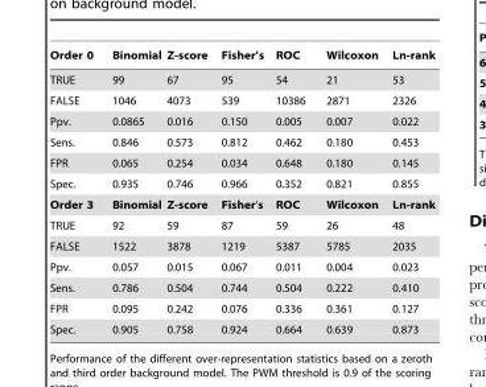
<table><thead><tr><td>Order 0</td><td>Binomial</td><td>Z-score</td><td>Fisher’s</td><td>ROC</td><td>Wilcoxon</td><td>Ln-rank</td></tr></thead><tbody><tr><td>TRUE</td><td>99</td><td>67</td><td>95</td><td>54</td><td>21</td><td>53</td></tr><tr><td>FALSE</td><td>1046</td><td>4073</td><td>539</td><td>10386</td><td>2871</td><td>2326</td></tr><tr><td>Ppv.</td><td>0.0865</td><td>0.016</td><td>0.150</td><td>0.005</td><td>0.007</td><td>0.022</td></tr><tr><td>Sens.</td><td>0.846</td><td>0.573</td><td>0.812</td><td>0.462</td><td>0.180</td><td>0.453</td></tr><tr><td>FPR</td><td>0.065</td><td>0.254</td><td>0.034</td><td>0.648</td><td>0.180</td><td>0.145</td></tr><tr><td>Spec.</td><td>0.935</td><td>0.746</td><td>0.966</td><td>0.352</td><td>0.821</td><td>0.855</td></tr><tr><td>Order 3</td><td>Binomial</td><td>Z-score</td><td>Fisher’s</td><td>ROC</td><td>Wilcoxon</td><td>Ln-rank</td></tr><tr><td>TRUE</td><td>92</td><td>59</td><td>87</td><td>59</td><td>26</td><td>48</td></tr><tr><td>FALSE</td><td>1522</td><td>3878</td><td>1219</td><td>5387</td><td>5785</td><td>2035</td></tr><tr><td>Ppv.</td><td>0.057</td><td>0.015</td><td>0.067</td><td>0.011</td><td>0.004</td><td>0.023</td></tr><tr><td>Sens.</td><td>0.786</td><td>0.504</td><td>0.744</td><td>0.504</td><td>0.222</td><td>0.410</td></tr><tr><td>FPR</td><td>0.095</td><td>0.242</td><td>0.076</td><td>0.336</td><td>0.361</td><td>0.127</td></tr><tr><td>Spec.</td><td>0.905</td><td>0.758</td><td>0.924</td><td>0.664</td><td>0.639</td><td>0.873</td></tr></tbody></table>